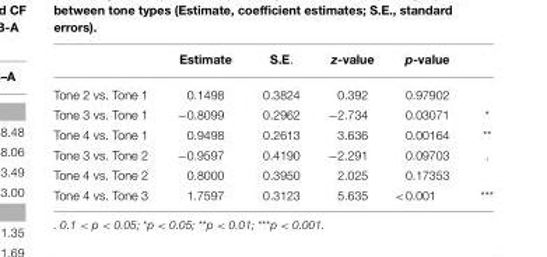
<table><thead><tr><td></td><td>Estimate</td><td>S.E.</td><td>z-value</td><td>p-value</td><td></td></tr></thead><tbody><tr><td>Tone 2 vs. Tone 1</td><td>0.1498</td><td>0.3824</td><td>0.392</td><td>0.97902</td><td></td></tr><tr><td>Tone 3 vs. Tone 1</td><td>−0.8099</td><td>0.2962</td><td>−2.734</td><td>0.03071</td><td>*</td></tr><tr><td>Tone 4 vs. Tone 1</td><td>0.9498</td><td>0.2613</td><td>3.636</td><td>0.00164</td><td>**</td></tr><tr><td>Tone 3 vs. Tone 2</td><td>−0.9597</td><td>0.4190</td><td>−2.291</td><td>0.09703</td><td>.</td></tr><tr><td>Tone 4 vs. Tone 2</td><td>0.8000</td><td>0.3950</td><td>2.025</td><td>0.17353</td><td></td></tr><tr><td>Tone 4 vs. Tone 3</td><td>1.7597</td><td>0.3123</td><td>5.635</td><td>&lt;0.001</td><td>***</td></tr></tbody></table>